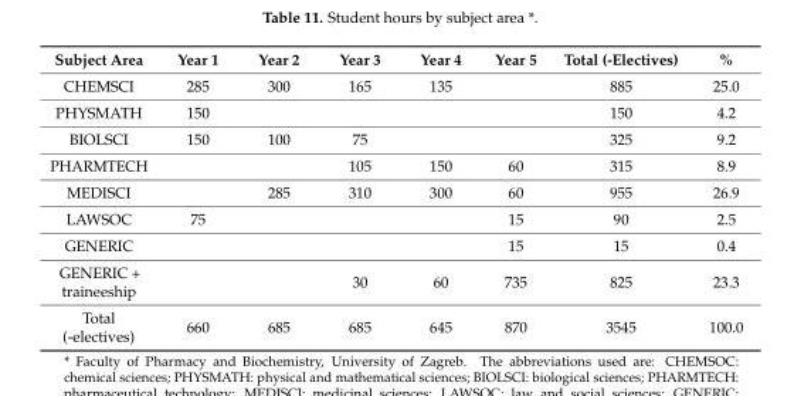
<table><thead><tr><td>Subject Area</td><td>Year 1</td><td>Year 2</td><td>Year 3</td><td>Year 4</td><td>Year 5</td><td>Total (-Electives)</td><td>%</td></tr></thead><tbody><tr><td>CHEMSCI</td><td>285</td><td>300</td><td>165</td><td>135</td><td></td><td>885</td><td>25.0</td></tr><tr><td>PHYSMATH</td><td>150</td><td></td><td></td><td></td><td></td><td>150</td><td>4.2</td></tr><tr><td>BIOLSCI</td><td>150</td><td>100</td><td>75</td><td></td><td></td><td>325</td><td>9.2</td></tr><tr><td>PHARMTECH</td><td></td><td></td><td>105</td><td>150</td><td>60</td><td>315</td><td>8.9</td></tr><tr><td>MEDISCI</td><td></td><td>285</td><td>310</td><td>300</td><td>60</td><td>955</td><td>26.9</td></tr><tr><td>LAWSOC</td><td>75</td><td></td><td></td><td></td><td>15</td><td>90</td><td>2.5</td></tr><tr><td>GENERIC</td><td></td><td></td><td></td><td></td><td>15</td><td>15</td><td>0.4</td></tr><tr><td>GENERIC + traineeship</td><td></td><td></td><td>30</td><td>60</td><td>735</td><td>825</td><td>23.3</td></tr><tr><td>Total (-electives)</td><td>660</td><td>685</td><td>685</td><td>645</td><td>870</td><td>3545</td><td>100.0</td></tr></tbody></table>